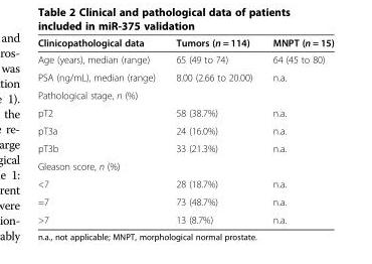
<table><thead><tr><td>Clinicopathological data</td><td>Tumors (n = 114)</td><td>MNPT (n = 15)</td></tr></thead><tbody><tr><td>Age (years), median (range)</td><td>65 (49 to 74)</td><td>64 (45 to 80)</td></tr><tr><td>PSA (ng/mL), median (range)</td><td>8.00 (2.66 to 20.00)</td><td>n.a.</td></tr><tr><td colspan="3">Pathological stage, n (%)</td></tr><tr><td>pT2</td><td>58 (38.7%)</td><td>n.a.</td></tr><tr><td>pT3a</td><td>24 (16.0%)</td><td>n.a.</td></tr><tr><td>pT3b</td><td>33 (21.3%)</td><td>n.a.</td></tr><tr><td colspan="3">Gleason score, n (%)</td></tr><tr><td>&lt;7</td><td>28 (18.7%)</td><td>n.a.</td></tr><tr><td>=7</td><td>73 (48.7%)</td><td>n.a.</td></tr><tr><td>&gt;7</td><td>13 (8.7%)</td><td>n.a.</td></tr></tbody></table>